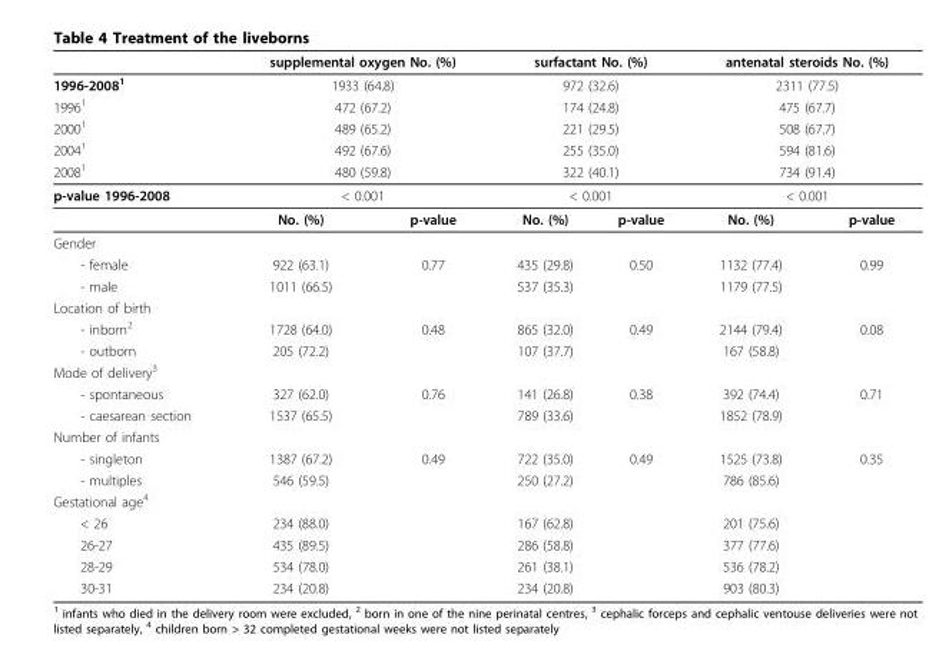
<table><thead><tr><td></td><td colspan="2">supplemental oxygen No. (%)</td><td colspan="2">surfactant No. (%)</td><td colspan="2">antenatal steroids No. (%)</td></tr></thead><tbody><tr><td>1996-2008<sup>1</sup></td><td colspan="2">1933 (64.8)</td><td colspan="2">972 (32.6)</td><td colspan="2">2311 (77.5)</td></tr><tr><td>1996<sup>1</sup></td><td colspan="2">472 (67.2)</td><td colspan="2">174 (24.8)</td><td colspan="2">475 (67.7)</td></tr><tr><td>2000<sup>1</sup></td><td colspan="2">489 (65.2)</td><td colspan="2">221 (29.5)</td><td colspan="2">508 (67.7)</td></tr><tr><td>2004<sup>1</sup></td><td colspan="2">492 (67.6)</td><td colspan="2">255 (35.0)</td><td colspan="2">594 (81.6)</td></tr><tr><td>2008<sup>1</sup></td><td colspan="2">480 (59.8)</td><td colspan="2">322 (40.1)</td><td colspan="2">734 (91.4)</td></tr><tr><td rowspan="2">p-value 1996-2008</td><td colspan="2">&lt; 0.001</td><td colspan="2">&lt; 0.001</td><td colspan="2">&lt; 0.001</td></tr><tr><td>No. (%)</td><td>p-value</td><td>No. (%)</td><td>p-value</td><td>No. (%)</td><td>p-value</td></tr><tr><td colspan="7">Gender</td></tr><tr><td>- female</td><td>922 (63.1)</td><td>0.77</td><td>435 (29.8)</td><td>0.50</td><td>1132 (77.4)</td><td>0.99</td></tr><tr><td>- male</td><td>1011 (66.5)</td><td></td><td>537 (35.3)</td><td></td><td>1179 (77.5)</td><td></td></tr><tr><td colspan="7">Location of birth</td></tr><tr><td>- inborn<sup>2</sup></td><td>1728 (64.0)</td><td>0.48</td><td>865 (32.0)</td><td>0.49</td><td>2144 (79.4)</td><td>0.08</td></tr><tr><td>- outborn</td><td>205 (72.2)</td><td></td><td>107 (37.7)</td><td></td><td>167 (58.8)</td><td></td></tr><tr><td colspan="7">Mode of delivery<sup>3</sup></td></tr><tr><td>- spontaneous</td><td>327 (62.0)</td><td>0.76</td><td>141 (26.8)</td><td>0.38</td><td>392 (74.4)</td><td>0.71</td></tr><tr><td>- caesarean section</td><td>1537 (65.5)</td><td></td><td>789 (33.6)</td><td></td><td>1852 (78.9)</td><td></td></tr><tr><td colspan="7">Number of infants</td></tr><tr><td>- singleton</td><td>1387 (67.2)</td><td>0.49</td><td>722 (35.0)</td><td>0.49</td><td>1525 (73.8)</td><td>0.35</td></tr><tr><td>- multiples</td><td>546 (59.5)</td><td></td><td>250 (27.2)</td><td></td><td>786 (85.6)</td><td></td></tr><tr><td colspan="7">Gestational age<sup>4</sup></td></tr><tr><td>&lt; 26</td><td>234 (88.0)</td><td></td><td>167 (62.8)</td><td></td><td>201 (75.6)</td><td></td></tr><tr><td>26-27</td><td>435 (89.5)</td><td></td><td>286 (58.8)</td><td></td><td>377 (77.6)</td><td></td></tr><tr><td>28-29</td><td>534 (78.0)</td><td></td><td>261 (38.1)</td><td></td><td>536 (78.2)</td><td></td></tr><tr><td>30-31</td><td>234 (20.8)</td><td></td><td>234 (20.8)</td><td></td><td>903 (80.3)</td><td></td></tr></tbody></table>